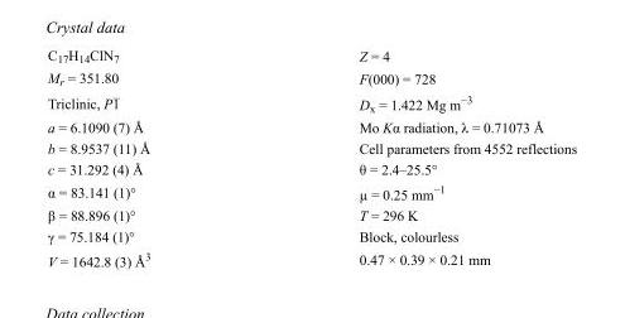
<table><tbody><tr><td>C<sub>17</sub>H<sub>14</sub>ClN<sub>7</sub></td><td>Z = 4</td></tr><tr><td>M<sub>r</sub> = 351.80</td><td>F(000) = 728</td></tr><tr><td>Triclinic, P1</td><td>D<sub>x</sub> = 1.422 Mg m<sup>−3</sup></td></tr><tr><td>a = 6.1090 (7) Å</td><td>Mo Kα radiation, λ = 0.71073 Å</td></tr><tr><td>b = 8.9537 (11) Å</td><td>Cell parameters from 4552 reflections</td></tr><tr><td>c = 31.292 (4) Å</td><td>θ = 2.4–25.5°</td></tr><tr><td>α = 83.141 (1)°</td><td>µ = 0.25 mm<sup>−1</sup></td></tr><tr><td>β = 88.896 (1)°</td><td>T = 296 K</td></tr><tr><td>γ = 75.184 (1)°</td><td>Block, colourless</td></tr><tr><td>V = 1642.8 (3) Å<sup>3</sup></td><td>0.47 × 0.39 × 0.21 mm</td></tr></tbody></table>